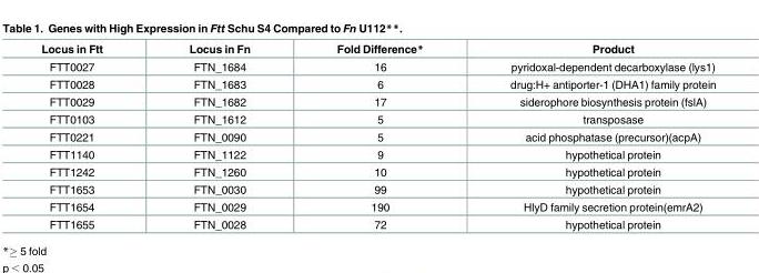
<table><thead><tr><td>Locus in Ftt</td><td>Locus in Fn</td><td>Fold Difference*</td><td>Product</td></tr></thead><tbody><tr><td>FTT0027</td><td>FTN_1684</td><td>16</td><td>pyridoxal-dependent decarboxylase (lys1)</td></tr><tr><td>FTT0028</td><td>FTN_1683</td><td>6</td><td>drug:H+ antiporter-1 (DHA1) family protein</td></tr><tr><td>FTT0029</td><td>FTN_1682</td><td>17</td><td>siderophore biosynthesis protein (fslA)</td></tr><tr><td>FTT0103</td><td>FTN_1612</td><td>5</td><td>transposase</td></tr><tr><td>FTT0221</td><td>FTN_0090</td><td>5</td><td>acid phosphatase (precursor)(acpA)</td></tr><tr><td>FTT1140</td><td>FTN_1122</td><td>9</td><td>hypothetical protein</td></tr><tr><td>FTT1242</td><td>FTN_1260</td><td>10</td><td>hypothetical protein</td></tr><tr><td>FTT1653</td><td>FTN_0030</td><td>99</td><td>hypothetical protein</td></tr><tr><td>FTT1654</td><td>FTN_0029</td><td>190</td><td>HlyD family secretion protein(emrA2)</td></tr><tr><td>FTT1655</td><td>FTN_0028</td><td>72</td><td>hypothetical protein</td></tr></tbody></table>